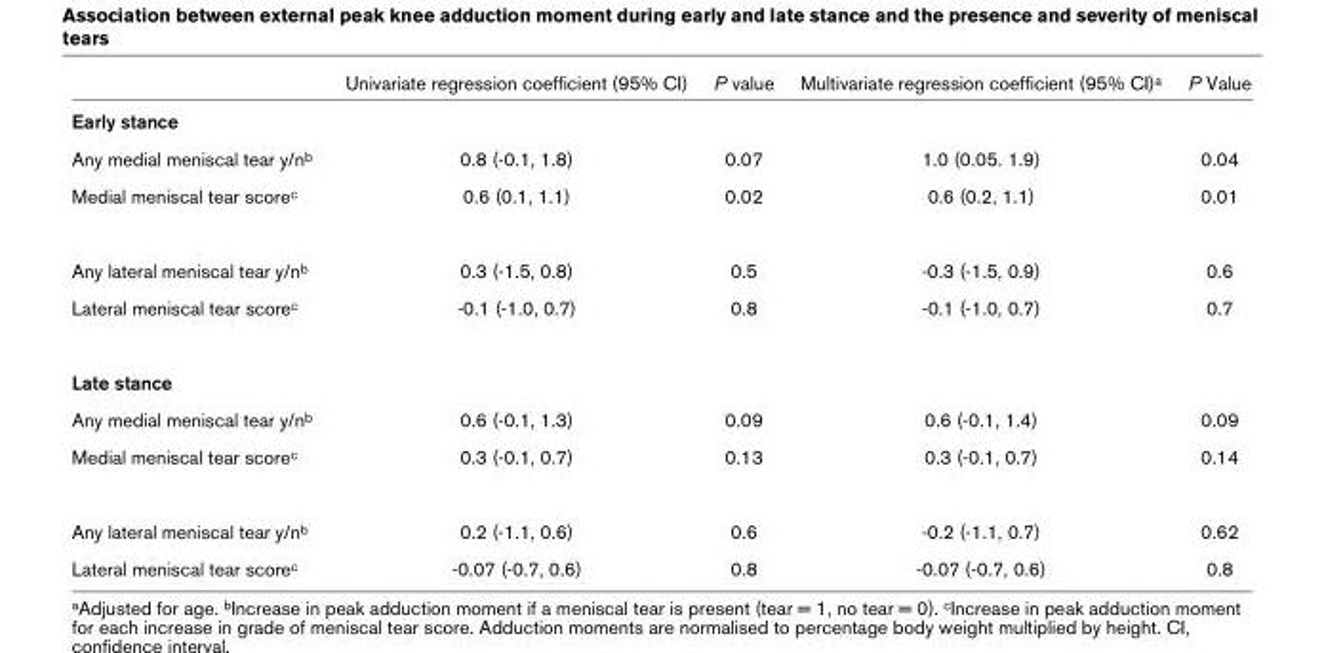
<table><thead><tr><td></td><td>Univariate regression coefficient (95% CI)</td><td>P value</td><td>Multivariate regression coefficient (95% CI)<sup>a</sup></td><td>P Value</td></tr></thead><tbody><tr><td colspan="5">Early stance</td></tr><tr><td>Any medial meniscal tear y/n<sup>b</sup></td><td>0.8 (-0.1, 1.8)</td><td>0.07</td><td>1.0 (0.05. 1.9)</td><td>0.04</td></tr><tr><td>Medial meniscal tear score<sup>c</sup></td><td>0.6 (0.1, 1.1)</td><td>0.02</td><td>0.6 (0.2, 1.1)</td><td>0.01</td></tr><tr><td>Any lateral meniscal tear y/n<sup>b</sup></td><td>0.3 (-1.5, 0.8)</td><td>0.5</td><td>-0.3 (-1.5, 0.9)</td><td>0.6</td></tr><tr><td>Lateral meniscal tear score<sup>c</sup></td><td>-0.1 (-1.0, 0.7)</td><td>0.8</td><td>-0.1 (-1.0, 0.7)</td><td>0.7</td></tr><tr><td colspan="5">Late stance</td></tr><tr><td>Any medial meniscal tear y/n<sup>b</sup></td><td>0.6 (-0.1, 1.3)</td><td>0.09</td><td>0.6 (-0.1, 1.4)</td><td>0.09</td></tr><tr><td>Medial meniscal tear score<sup>c</sup></td><td>0.3 (-0.1, 0.7)</td><td>0.13</td><td>0.3 (-0.1, 0.7)</td><td>0.14</td></tr><tr><td>Any lateral meniscal tear y/n<sup>b</sup></td><td>0.2 (-1.1, 0.6)</td><td>0.6</td><td>-0.2 (-1.1, 0.7)</td><td>0.62</td></tr><tr><td>Lateral meniscal tear score<sup>c</sup></td><td>-0.07 (-0.7, 0.6)</td><td>0.8</td><td>-0.07 (-0.7, 0.6)</td><td>0.8</td></tr></tbody></table>